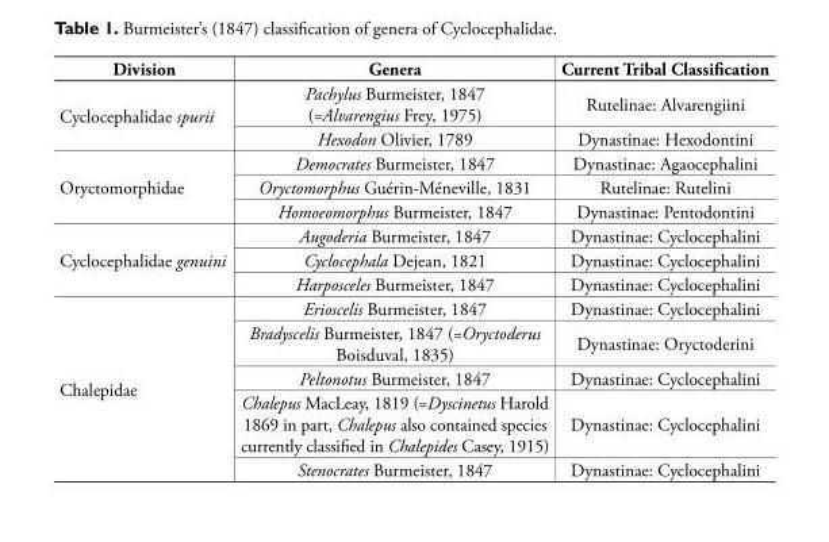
<table><thead><tr><td>Division</td><td>Genera</td><td>Current Tribal Classification</td></tr></thead><tbody><tr><td rowspan="2">Cyclocephalidae spurii</td><td>Pachylus Burmeister, 1847 (=Alvarengius Frey, 1975)</td><td>Rutelinae: Alvarengiini</td></tr><tr><td>Hexodon Olivier, 1789</td><td>Dynastinae: Hexodontini</td></tr><tr><td rowspan="3">Oryctomorphidae</td><td>Democrates Burmeister, 1847</td><td>Dynastinae: Agaocephalini</td></tr><tr><td>Oryctomorphus Guérin-Méneville, 1831</td><td>Rutelinae: Rutelini</td></tr><tr><td>Homoeomorphus Burmeister, 1847</td><td>Dynastinae: Pentodontini</td></tr><tr><td rowspan="3">Cyclocephalidae genuini</td><td>Augoderia Burmeister, 1847</td><td>Dynastinae: Cyclocephalini</td></tr><tr><td>Cyclocephala Dejean, 1821</td><td>Dynastinae: Cyclocephalini</td></tr><tr><td>Harposceles Burmeister, 1847</td><td>Dynastinae: Cyclocephalini</td></tr><tr><td rowspan="5">Chalepidae</td><td>Erioscelis Burmeister, 1847</td><td>Dynastinae: Cyclocephalini</td></tr><tr><td>Bradyscelis Burmeister, 1847 (=Oryctoderus Boisduval, 1835)</td><td>Dynastinae: Oryctoderini</td></tr><tr><td>Peltonotus Burmeister, 1847</td><td>Dynastinae: Cyclocephalini</td></tr><tr><td>Chalepus MacLeay, 1819 (=Dyscinetus Harold 1869 in part, Chalepus also contained species currently classified in Chalepides Casey, 1915)</td><td>Dynastinae: Cyclocephalini</td></tr><tr><td>Stenocrates Burmeister, 1847</td><td>Dynastinae: Cyclocephalini</td></tr></tbody></table>